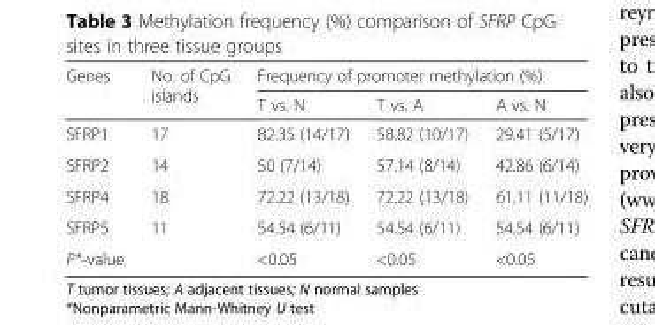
<table><thead><tr><td rowspan="2">Genes</td><td rowspan="2">No. of CpG islands</td><td colspan="3">Frequency of promoter methylation (%)</td></tr><tr><td>T vs. N</td><td>T vs. A</td><td>A vs. N</td></tr></thead><tbody><tr><td>SFRP1</td><td>17</td><td>82.35 (14/17)</td><td>58.82 (10/17)</td><td>29.41 (5/17)</td></tr><tr><td>SFRP2</td><td>14</td><td>50 (7/14)</td><td>57.14 (8/14)</td><td>42.86 (6/14)</td></tr><tr><td>SFRP4</td><td>18</td><td>72.22 (13/18)</td><td>72.22 (13/18)</td><td>61.11 (11/18)</td></tr><tr><td>SFRP5</td><td>11</td><td>54.54 (6/11)</td><td>54.54 (6/11)</td><td>54.54 (6/11)</td></tr><tr><td>P*-value</td><td></td><td>&lt;0.05</td><td>&lt;0.05</td><td>&lt;0.05</td></tr></tbody></table>